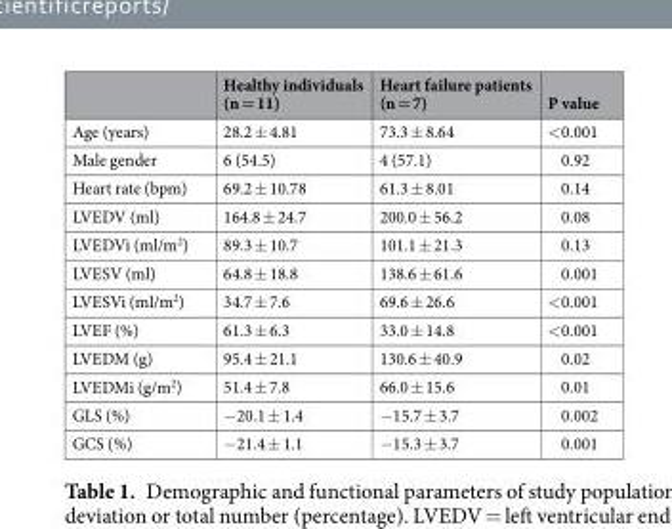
<table><thead><tr><td></td><td>Healthy individuals (n = 11)</td><td>Heart failure patients (n = 7)</td><td>P value</td></tr></thead><tbody><tr><td>Age (years)</td><td>28.2 ± 4.81</td><td>73.3 ± 8.64</td><td>&lt;0.001</td></tr><tr><td>Male gender</td><td>6 (54.5)</td><td>4 (57.1)</td><td>0.92</td></tr><tr><td>Heart rate (bpm)</td><td>69.2 ± 10.78</td><td>61.3 ± 8.01</td><td>0.14</td></tr><tr><td>LVEDV (ml)</td><td>164.8 ± 24.7</td><td>200.0 ± 56.2</td><td>0.08</td></tr><tr><td>LVEDVi (ml/m<sup>2</sup>)</td><td>89.3 ± 10.7</td><td>101.1 ± 21.3</td><td>0.13</td></tr><tr><td>LVESV (ml)</td><td>64.8 ± 18.8</td><td>138.6 ± 61.6</td><td>0.001</td></tr><tr><td>LVESVi (ml/m<sup>2</sup>)</td><td>34.7 ± 7.6</td><td>69.6 ± 26.6</td><td>&lt;0.001</td></tr><tr><td>LVEF (%)</td><td>61.3 ± 6.3</td><td>33.0 ± 14.8</td><td>&lt;0.001</td></tr><tr><td>LVEDM (g)</td><td>95.4 ± 21.1</td><td>130.6 ± 40.9</td><td>0.02</td></tr><tr><td>LVEDMi (g/m<sup>2</sup>)</td><td>51.4 ± 7.8</td><td>66.0 ± 15.6</td><td>0.01</td></tr><tr><td>GLS (%)</td><td>−20.1 ± 1.4</td><td>−15.7 ± 3.7</td><td>0.002</td></tr><tr><td>GCS (%)</td><td>−21.4 ± 1.1</td><td>−15.3 ± 3.7</td><td>0.001</td></tr></tbody></table>